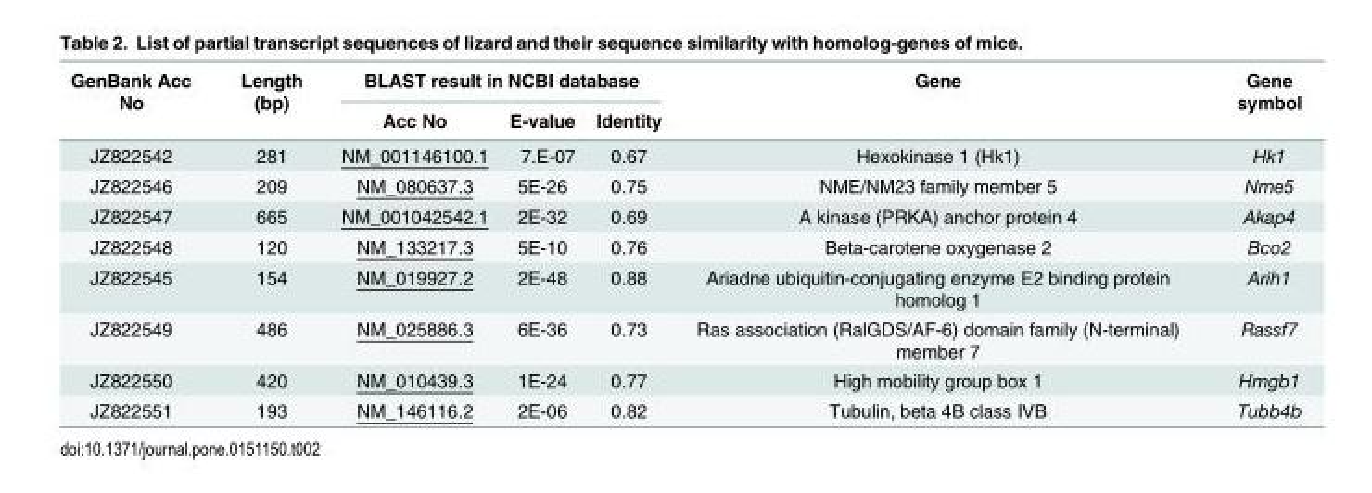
<table><thead><tr><td rowspan="2">GenBank Acc No</td><td rowspan="2">Length (bp)</td><td colspan="3">BLAST result in NCBI database</td><td rowspan="2">Gene</td><td rowspan="2">Gene symbol</td></tr><tr><td>Acc No</td><td>E-value</td><td>Identity</td></tr></thead><tbody><tr><td>JZ822542</td><td>281</td><td>NM_001146100.1</td><td>7.E-07</td><td>0.67</td><td>Hexokinase 1 (Hk1)</td><td>Hk1</td></tr><tr><td>JZ822546</td><td>209</td><td>NM_080637.3</td><td>5E-26</td><td>0.75</td><td>NME/NM23 family member 5</td><td>Nme5</td></tr><tr><td>JZ822547</td><td>665</td><td>NM_001042542.1</td><td>2E-32</td><td>0.69</td><td>A kinase (PRKA) anchor protein 4</td><td>Akap4</td></tr><tr><td>JZ822548</td><td>120</td><td>NM_133217.3</td><td>5E-10</td><td>0.76</td><td>Beta-carotene oxygenase 2</td><td>Bco2</td></tr><tr><td>JZ822545</td><td>154</td><td>NM_019927.2</td><td>2E-48</td><td>0.88</td><td>Ariadne ubiquitin-conjugating enzyme E2 binding protein homolog 1</td><td>Arih1</td></tr><tr><td>JZ822549</td><td>486</td><td>NM_025886.3</td><td>6E-36</td><td>0.73</td><td>Ras association (RalGDS/AF-6) domain family (N-terminal) member 7</td><td>Rassf7</td></tr><tr><td>JZ822550</td><td>420</td><td>NM_010439.3</td><td>1E-24</td><td>0.77</td><td>High mobility group box 1</td><td>Hmgb1</td></tr><tr><td>JZ822551</td><td>193</td><td>NM_146116.2</td><td>2E-06</td><td>0.82</td><td>Tubulin, beta 4B class IVB</td><td>Tubb4b</td></tr></tbody></table>